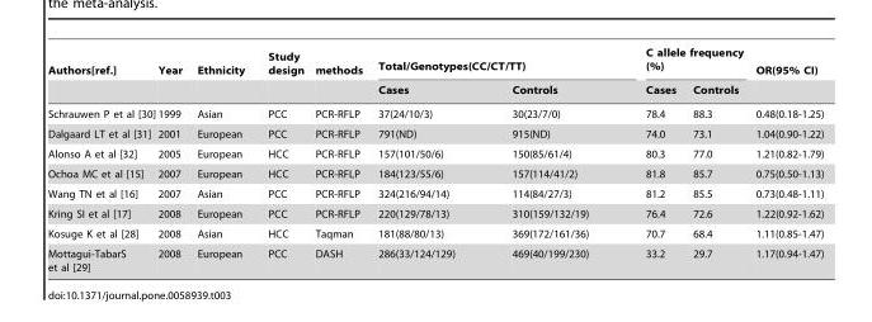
<table><thead><tr><td rowspan="2">Authors[ref.]</td><td rowspan="2">Year</td><td rowspan="2">Ethnicity</td><td rowspan="2">Study design</td><td rowspan="2">methods</td><td colspan="2">Total/Genotypes(CC/CT/TT)</td><td colspan="2">C allele frequency (%)</td><td rowspan="2">OR(95% CI)</td></tr><tr><td>Cases</td><td>Controls</td><td>Cases</td><td>Controls</td></tr></thead><tbody><tr><td>Schrauwen P et al [30]</td><td>1999</td><td>Asian</td><td>PCC</td><td>PCR-RFLP</td><td>37(24/10/3)</td><td>30(23/7/0)</td><td>78.4</td><td>88.3</td><td>0.48(0.18-1.25)</td></tr><tr><td>Dalgaard LT et al [31]</td><td>2001</td><td>European</td><td>PCC</td><td>PCR-RFLP</td><td>791(ND)</td><td>915(ND)</td><td>74.0</td><td>73.1</td><td>1.04(0.90-1.22)</td></tr><tr><td>Alonso A et al [32]</td><td>2005</td><td>European</td><td>HCC</td><td>PCR-RFLP</td><td>157(101/50/6)</td><td>150(85/61/4)</td><td>80.3</td><td>77.0</td><td>1.21(0.82-1.79)</td></tr><tr><td>Ochoa MC et al [15]</td><td>2007</td><td>European</td><td>HCC</td><td>PCR-RFLP</td><td>184(123/55/6)</td><td>157(114/41/2)</td><td>81.8</td><td>85.7</td><td>0.75(0.50-1.13)</td></tr><tr><td>Wang TN et al [16]</td><td>2007</td><td>Asian</td><td>PCC</td><td>PCR-RFLP</td><td>324(216/94/14)</td><td>114(84/27/3)</td><td>81.2</td><td>85.5</td><td>0.73(0.48-1.11)</td></tr><tr><td>Kring SI et al [17]</td><td>2008</td><td>European</td><td>PCC</td><td>PCR-RFLP</td><td>220(129/78/13)</td><td>310(159/132/19)</td><td>76.4</td><td>72.6</td><td>1.22(0.92-1.62)</td></tr><tr><td>Kosuge K et al [28]</td><td>2008</td><td>Asian</td><td>HCC</td><td>Taqman</td><td>181(88/80/13)</td><td>369(172/161/36)</td><td>70.7</td><td>68.4</td><td>1.11(0.85-1.47)</td></tr><tr><td>Mottagui-TabarS et al [29]</td><td>2008</td><td>European</td><td>PCC</td><td>DASH</td><td>286(33/124/129)</td><td>469(40/199/230)</td><td>33.2</td><td>29.7</td><td>1.17(0.94-1.47)</td></tr></tbody></table>